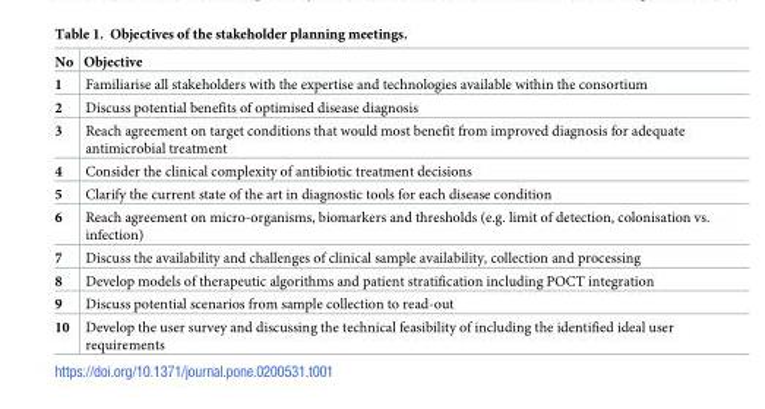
<table><thead><tr><td>No</td><td>Objective</td></tr></thead><tbody><tr><td>1</td><td>Familiarise all stakeholders with the expertise and technologies available within the consortium</td></tr><tr><td>2</td><td>Discuss potential benefits of optimised disease diagnosis</td></tr><tr><td>3</td><td>Reach agreement on target conditions that would most benefit from improved diagnosis for adequate antimicrobial treatment</td></tr><tr><td>4</td><td>Consider the clinical complexity of antibiotic treatment decisions</td></tr><tr><td>5</td><td>Clarify the current state of the art in diagnostic tools for each disease condition</td></tr><tr><td>6</td><td>Reach agreement on micro-organisms, biomarkers and thresholds (e.g. limit of detection, colonisation vs. infection)</td></tr><tr><td>7</td><td>Discuss the availability and challenges of clinical sample availability, collection and processing</td></tr><tr><td>8</td><td>Develop models of therapeutic algorithms and patient stratification including POCT integration</td></tr><tr><td>9</td><td>Discuss potential scenarios from sample collection to read-out</td></tr><tr><td>10</td><td>Develop the user survey and discussing the technical feasibility of including the identified ideal user requirements</td></tr></tbody></table>